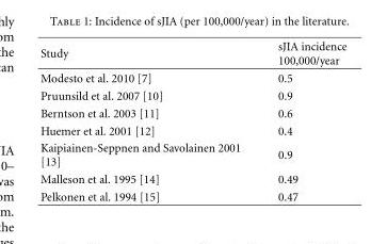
<table><thead><tr><td>Study</td><td>sJIA incidence 100,000/year</td></tr></thead><tbody><tr><td>Modesto et al. 2010 [7]</td><td>0.5</td></tr><tr><td>Pruunsild et al. 2007 [10]</td><td>0.9</td></tr><tr><td>Berntson et al. 2003 [11]</td><td>0.6</td></tr><tr><td>Huemer et al. 2001 [12]</td><td>0.4</td></tr><tr><td>Kaipiainen-Seppnen and Savolainen 2001 [13]</td><td>0.9</td></tr><tr><td>Malleson et al. 1995 [14]</td><td>0.49</td></tr><tr><td>Pelkonen et al. 1994 [15]</td><td>0.47</td></tr></tbody></table>